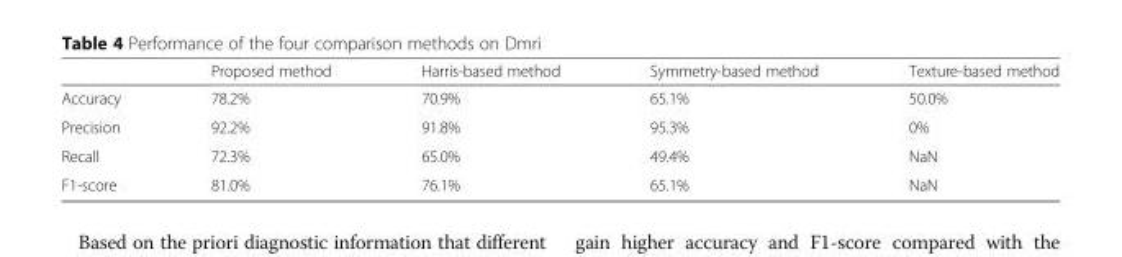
<table><thead><tr><td></td><td>Proposed method</td><td>Harris-based method</td><td>Symmetry-based method</td><td>Texture-based method</td></tr></thead><tbody><tr><td>Accuracy</td><td>78.2%</td><td>70.9%</td><td>65.1%</td><td>50.0%</td></tr><tr><td>Precision</td><td>92.2%</td><td>91.8%</td><td>95.3%</td><td>0%</td></tr><tr><td>Recall</td><td>72.3%</td><td>65.0%</td><td>49.4%</td><td>NaN</td></tr><tr><td>F1-score</td><td>81.0%</td><td>76.1%</td><td>65.1%</td><td>NaN</td></tr></tbody></table>